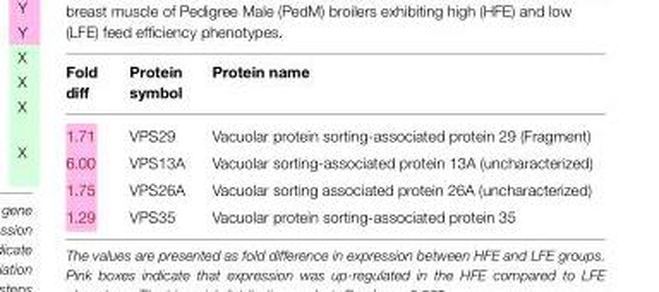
<table><thead><tr><td>Fold diff</td><td>Protein symbol</td><td>Protein name</td></tr></thead><tbody><tr><td>1.71</td><td>VPS29</td><td>Vacuolar protein sorting-associated protein 29 (Fragment)</td></tr><tr><td>6.00</td><td>VPS13A</td><td>Vacuolar sorting-associated protein 13A (uncharacterized)</td></tr><tr><td>1.75</td><td>VPS26A</td><td>Vacuolar sorting associated protein 26A (uncharacterized)</td></tr><tr><td>1.29</td><td>VPS35</td><td>Vacuolar protein sorting-associated protein 35</td></tr></tbody></table>